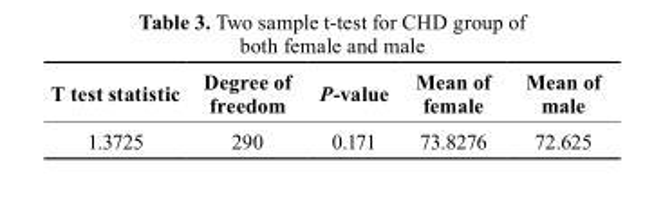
<table><thead><tr><td>test statistic</td><td>Degree of freedom</td><td>P-value</td><td>Mean of female</td><td>Mean of male</td></tr></thead><tbody><tr><td>1.3725</td><td>290</td><td>0.171</td><td>73.8276</td><td>72.625</td></tr></tbody></table>